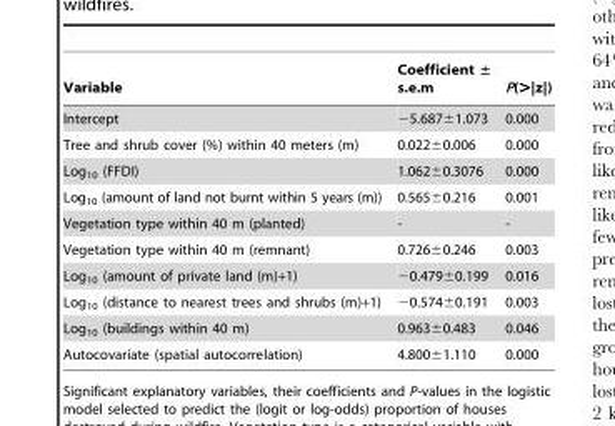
<table><thead><tr><td>Variable</td><td>Coefficient ± s.e.m</td><td>P(&gt;|z|)</td></tr></thead><tbody><tr><td>Intercept</td><td>−5.687±1.073</td><td>0.000</td></tr><tr><td>Tree and shrub cover (%) within 40 meters (m)</td><td>0.022±0.006</td><td>0.000</td></tr><tr><td>Log<sub>10</sub> (FFDI)</td><td>1.062±0.3076</td><td>0.000</td></tr><tr><td>Log<sub>10</sub> (amount of land not burnt within 5 years (m))</td><td>0.565±0.216</td><td>0.001</td></tr><tr><td>Vegetation type within 40 m (planted)</td><td>-</td><td>-</td></tr><tr><td>Vegetation type within 40 m (remnant)</td><td>0.726±0.246</td><td>0.003</td></tr><tr><td>Log<sub>10</sub> (amount of private land (m)+1)</td><td>−0.479±0.199</td><td>0.016</td></tr><tr><td>Log<sub>10</sub> (distance to nearest trees and shrubs (m)+1)</td><td>−0.574±0.191</td><td>0.003</td></tr><tr><td>Log<sub>10</sub> (buildings within 40 m)</td><td>0.963±0.483</td><td>0.046</td></tr><tr><td>Autocovariate (spatial autocorrelation)</td><td>4.800±1.110</td><td>0.000</td></tr></tbody></table>